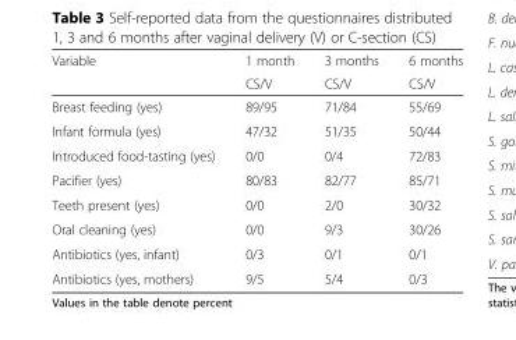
<table><thead><tr><td rowspan="2">Variable</td><td rowspan="2">1 month CS/V</td><td rowspan="2">3 months CS/V</td><td rowspan="2">6 months CS/V</td></tr><tr></tr></thead><tbody><tr><td>Breast feeding (yes)</td><td>89/95</td><td>71/84</td><td>55/69</td></tr><tr><td>Infant formula (yes)</td><td>47/32</td><td>51/35</td><td>50/44</td></tr><tr><td>Introduced food-tasting (yes)</td><td>0/0</td><td>0/4</td><td>72/83</td></tr><tr><td>Pacifier (yes)</td><td>80/83</td><td>82/77</td><td>85/71</td></tr><tr><td>Teeth present (yes)</td><td>0/0</td><td>2/0</td><td>30/32</td></tr><tr><td>Oral cleaning (yes)</td><td>0/0</td><td>9/3</td><td>30/26</td></tr><tr><td>Antibiotics (yes, infant)</td><td>0/3</td><td>0/1</td><td>0/1</td></tr><tr><td>Antibiotics (yes, mothers)</td><td>9/5</td><td>5/4</td><td>0/3</td></tr></tbody></table>